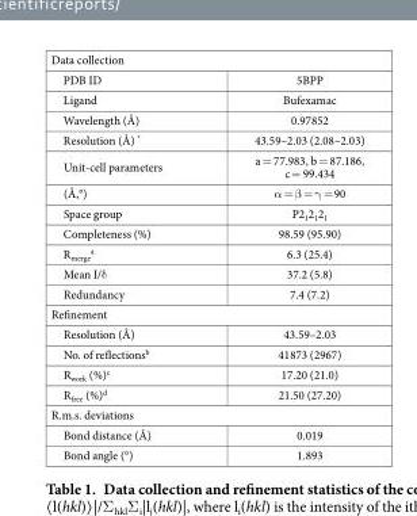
<table><tbody><tr><td colspan="2">Data collection</td></tr><tr><td>PDB ID</td><td>5BPP</td></tr><tr><td>Ligand</td><td>Bufexamac</td></tr><tr><td>Wavelength (Å)</td><td>0.97852</td></tr><tr><td>Resolution (Å) *</td><td>43.59–2.03 (2.08–2.03)</td></tr><tr><td>Unit-cell parameters</td><td>a = 77.983, b = 87.186, c = 99.434</td></tr><tr><td>(Å,°)</td><td>α = β = γ = 90</td></tr><tr><td>Space group</td><td>P2<sub>1</sub>2<sub>1</sub>2<sub>1</sub></td></tr><tr><td>Completeness (%)</td><td>98.59 (95.90)</td></tr><tr><td>R<sub>merge</sub> <sup>a</sup></td><td>6.3 (25.4)</td></tr><tr><td>Mean I/δ</td><td>37.2 (5.8)</td></tr><tr><td>Redundancy</td><td>7.4 (7.2)</td></tr><tr><td colspan="2">Refinement</td></tr><tr><td>Resolution (Å)</td><td>43.59–2.03</td></tr><tr><td>No. of reflections<sup>b</sup></td><td>41873 (2967)</td></tr><tr><td>R<sub>work</sub> (%)<sup>c</sup></td><td>17.20 (21.0)</td></tr><tr><td>R<sub>free</sub> (%)<sup>d</sup></td><td>21.50 (27.20)</td></tr><tr><td colspan="2">R.m.s. deviations</td></tr><tr><td>Bond distance (Å)</td><td>0.019</td></tr><tr><td>Bond angle (°)</td><td>1.893</td></tr></tbody></table>